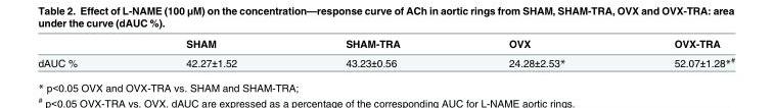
<table><thead><tr><td></td><td>SHAM</td><td>SHAM-TRA</td><td>OVX</td><td>OVX-TRA</td></tr></thead><tbody><tr><td>dAUC %</td><td>42.27±1.52</td><td>43.23±0.56</td><td>24.28±2.53*</td><td>52.07±1.28*<sup>#</sup></td></tr></tbody></table>